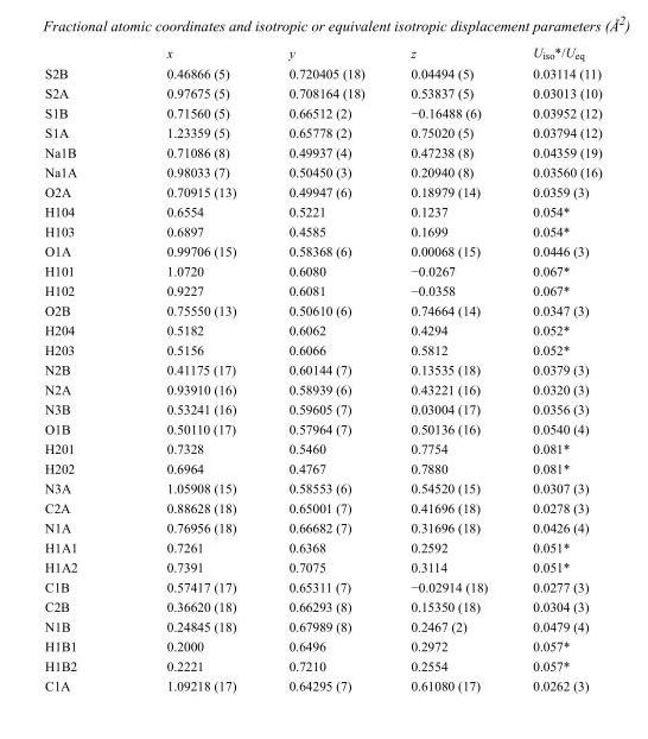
<table><thead><tr><td></td><td>x</td><td>y</td><td>z</td><td>U<sub>iso</sub>*/U<sub>eq</sub></td></tr></thead><tbody><tr><td>S2B</td><td>0.46866 (5)</td><td>0.720405 (18)</td><td>0.04494 (5)</td><td>0.03114 (11)</td></tr><tr><td>S2A</td><td>0.97675 (5)</td><td>0.708164 (18)</td><td>0.53837 (5)</td><td>0.03013 (10)</td></tr><tr><td>S1B</td><td>0.71560 (5)</td><td>0.66512 (2)</td><td>−0.16488 (6)</td><td>0.03952 (12)</td></tr><tr><td>S1A</td><td>1.23359 (5)</td><td>0.65778 (2)</td><td>0.75020 (5)</td><td>0.03794 (12)</td></tr><tr><td>Na1B</td><td>0.71086 (8)</td><td>0.49937 (4)</td><td>0.47238 (8)</td><td>0.04359 (19)</td></tr><tr><td>Na1A</td><td>0.98033 (7)</td><td>0.50450 (3)</td><td>0.20940 (8)</td><td>0.03560 (16)</td></tr><tr><td>O2A</td><td>0.70915 (13)</td><td>0.49947 (6)</td><td>0.18979 (14)</td><td>0.0359 (3)</td></tr><tr><td>H104</td><td>0.6554</td><td>0.5221</td><td>0.1237</td><td>0.054*</td></tr><tr><td>H103</td><td>0.6897</td><td>0.4585</td><td>0.1699</td><td>0.054*</td></tr><tr><td>O1A</td><td>0.99706 (15)</td><td>0.58368 (6)</td><td>0.00068 (15)</td><td>0.0446 (3)</td></tr><tr><td>H101</td><td>1.0720</td><td>0.6080</td><td>−0.0267</td><td>0.067*</td></tr><tr><td>H102</td><td>0.9227</td><td>0.6081</td><td>−0.0358</td><td>0.067*</td></tr><tr><td>O2B</td><td>0.75550 (13)</td><td>0.50610 (6)</td><td>0.74664 (14)</td><td>0.0347 (3)</td></tr><tr><td>H204</td><td>0.5182</td><td>0.6062</td><td>0.4294</td><td>0.052*</td></tr><tr><td>H203</td><td>0.5156</td><td>0.6066</td><td>0.5812</td><td>0.052*</td></tr><tr><td>N2B</td><td>0.41175 (17)</td><td>0.60144 (7)</td><td>0.13535 (18)</td><td>0.0379 (3)</td></tr><tr><td>N2A</td><td>0.93910 (16)</td><td>0.58939 (6)</td><td>0.43221 (16)</td><td>0.0320 (3)</td></tr><tr><td>N3B</td><td>0.53241 (16)</td><td>0.59605 (7)</td><td>0.03004 (17)</td><td>0.0356 (3)</td></tr><tr><td>O1B</td><td>0.50110 (17)</td><td>0.57964 (7)</td><td>0.50136 (16)</td><td>0.0540 (4)</td></tr><tr><td>H201</td><td>0.7328</td><td>0.5460</td><td>0.7754</td><td>0.081*</td></tr><tr><td>H202</td><td>0.6964</td><td>0.4767</td><td>0.7880</td><td>0.081*</td></tr><tr><td>N3A</td><td>1.05908 (15)</td><td>0.58553 (6)</td><td>0.54520 (15)</td><td>0.0307 (3)</td></tr><tr><td>C2A</td><td>0.88628 (18)</td><td>0.65001 (7)</td><td>0.41696 (18)</td><td>0.0278 (3)</td></tr><tr><td>N1A</td><td>0.76956 (18)</td><td>0.66682 (7)</td><td>0.31696 (18)</td><td>0.0426 (4)</td></tr><tr><td>H1A1</td><td>0.7261</td><td>0.6368</td><td>0.2592</td><td>0.051*</td></tr><tr><td>H1A2</td><td>0.7391</td><td>0.7075</td><td>0.3114</td><td>0.051*</td></tr><tr><td>C1B</td><td>0.57417 (17)</td><td>0.65311 (7)</td><td>−0.02914 (18)</td><td>0.0277 (3)</td></tr><tr><td>C2B</td><td>0.36620 (18)</td><td>0.66293 (8)</td><td>0.15350 (18)</td><td>0.0304 (3)</td></tr><tr><td>N1B</td><td>0.24845 (18)</td><td>0.67989 (8)</td><td>0.2467 (2)</td><td>0.0479 (4)</td></tr><tr><td>H1B1</td><td>0.2000</td><td>0.6496</td><td>0.2972</td><td>0.057*</td></tr><tr><td>H1B2</td><td>0.2221</td><td>0.7210</td><td>0.2554</td><td>0.057*</td></tr><tr><td>C1A</td><td>1.09218 (17)</td><td>0.64295 (7)</td><td>0.61080 (17)</td><td>0.0262 (3)</td></tr></tbody></table>